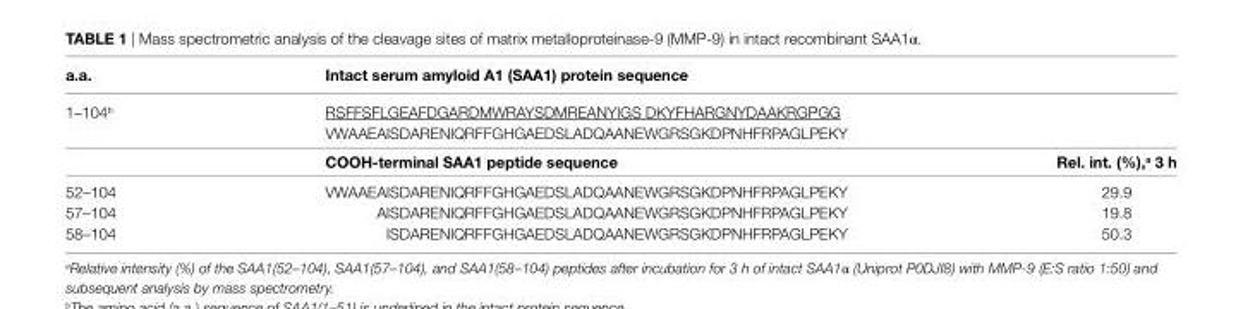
<table><thead><tr><td>a.a.</td><td>intact serum amyloid a1 (saa1) protein sequence</td><td></td></tr></thead><tbody><tr><td rowspan="2">1–104<sup>b</sup></td><td>RSFFSFLGEAFDGARDMWRAYSDMREANYIGS DKYFHARGNYDAAKRGPGG VWAAEAISDARENIQRFFGHGAEDSLADQAANEWGRSGKDPNHFRPAGLPEKY</td><td></td></tr><tr><td>cOOh-terminal saa1 peptide sequence</td><td>rel. int. (%),<sup>a</sup> 3 h</td></tr><tr><td>52–104</td><td>VWAAEAISDARENIQRFFGHGAEDSLADQAANEWGRSGKDPNHFRPAGLPEKY</td><td>29.9</td></tr><tr><td>57–104</td><td>AISDARENIQRFFGHGAEDSLADQAANEWGRSGKDPNHFRPAGLPEKY</td><td>19.8</td></tr><tr><td>58–104</td><td>ISDARENIQRFFGHGAEDSLADQAANEWGRSGKDPNHFRPAGLPEKY</td><td>50.3</td></tr></tbody></table>